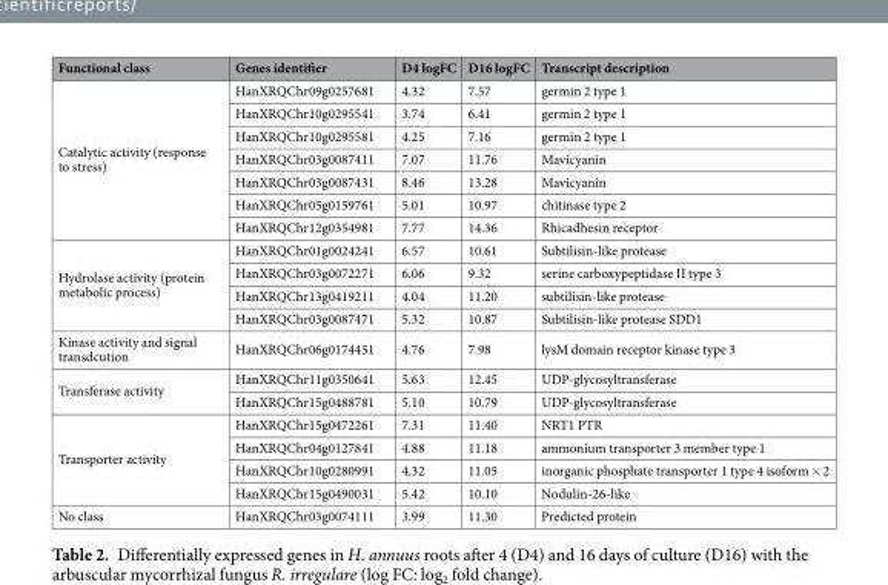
<table><thead><tr><td>Functional class</td><td>Genes identifier</td><td>D4 logFC</td><td>D16 logFC</td><td>Transcript description</td></tr></thead><tbody><tr><td rowspan="7">Catalytic activity (response to stress)</td><td>HanXRQChr09g0257681</td><td>4.32</td><td>7.57</td><td>germin 2 type 1</td></tr><tr><td>HanXRQChr10g0295541</td><td>3.74</td><td>6.41</td><td>germin 2 type 1</td></tr><tr><td>HanXRQChr10g0295581</td><td>4.25</td><td>7.16</td><td>germin 2 type 1</td></tr><tr><td>HanXRQChr03g0087411</td><td>7.07</td><td>11.76</td><td>Mavicyanin</td></tr><tr><td>HanXRQChr03g0087431</td><td>8.46</td><td>13.28</td><td>Mavicyanin</td></tr><tr><td>HanXRQChr05g0159761</td><td>5.01</td><td>10.97</td><td>chitinase type 2</td></tr><tr><td>HanXRQChr12g0354981</td><td>7.77</td><td>14.36</td><td>Rhicadhesin receptor</td></tr><tr><td rowspan="4">Hydrolase activity (protein metabolic process)</td><td>HanXRQChr01g0024241</td><td>6.57</td><td>10.61</td><td>Subtilisin-like protease</td></tr><tr><td>HanXRQChr03g0072271</td><td>6.06</td><td>9.32</td><td>serine carboxypeptidase II type 3</td></tr><tr><td>HanXRQChr13g0419211</td><td>4.04</td><td>11.20</td><td>subtilisin-like protease</td></tr><tr><td>HanXRQChr03g0087471</td><td>5.32</td><td>10.87</td><td>Subtilisin-like protease SDD1</td></tr><tr><td>Kinase activity and signal transdcution</td><td>HanXRQChr06g0174451</td><td>4.76</td><td>7.98</td><td>lysM domain receptor kinase type 3</td></tr><tr><td rowspan="2">Transferase activity</td><td>HanXRQChr11g0350641</td><td>5.63</td><td>12.45</td><td>UDP-glycosyltransferase</td></tr><tr><td>HanXRQChr15g0488781</td><td>5.10</td><td>10.79</td><td>UDP-glycosyltransferase</td></tr><tr><td rowspan="4">Transporter activity</td><td>HanXRQChr15g0472261</td><td>7.31</td><td>11.40</td><td>NRT1 PTR</td></tr><tr><td>HanXRQChr04g0127841</td><td>4.88</td><td>11.18</td><td>ammonium transporter 3 member type 1</td></tr><tr><td>HanXRQChr10g0280991</td><td>4.32</td><td>11.05</td><td>inorganic phosphate transporter 1 type 4 isoform × 2</td></tr><tr><td>HanXRQChr15g0490031</td><td>5.42</td><td>10.10</td><td>Nodulin-26-like</td></tr><tr><td>No class</td><td>HanXRQChr03g0074111</td><td>3.99</td><td>11.30</td><td>Predicted protein</td></tr></tbody></table>